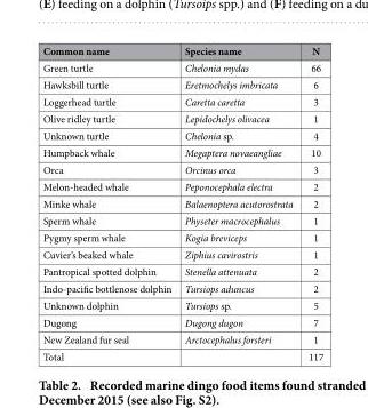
<table><thead><tr><td>Common name</td><td>Species name</td><td>N</td></tr></thead><tbody><tr><td>Green turtle</td><td>Chelonia mydas</td><td>66</td></tr><tr><td>Hawksbill turtle</td><td>Eretmochelys imbricata</td><td>6</td></tr><tr><td>Loggerhead turtle</td><td>Caretta caretta</td><td>3</td></tr><tr><td>Olive ridley turtle</td><td>Lepidochelys olivacea</td><td>1</td></tr><tr><td>Unknown turtle</td><td>Chelonia sp.</td><td>4</td></tr><tr><td>Humpback whale</td><td>Megaptera novaeangliae</td><td>10</td></tr><tr><td>Orca</td><td>Orcinus orca</td><td>3</td></tr><tr><td>Melon-headed whale</td><td>Peponocephala electra</td><td>2</td></tr><tr><td>Minke whale</td><td>Balaenoptera acutorostrata</td><td>2</td></tr><tr><td>Sperm whale</td><td>Physeter macrocephalus</td><td>1</td></tr><tr><td>Pygmy sperm whale</td><td>Kogia breviceps</td><td>1</td></tr><tr><td>Cuvier’s beaked whale</td><td>Ziphius cavirostris</td><td>1</td></tr><tr><td>Pantropical spotted dolphin</td><td>Stenella attenuata</td><td>2</td></tr><tr><td>Indo-pacific bottlenose dolphin</td><td>Tursiops aduncus</td><td>2</td></tr><tr><td>Unknown dolphin</td><td>Tursiops sp.</td><td>5</td></tr><tr><td>Dugong</td><td>Dugong dugon</td><td>7</td></tr><tr><td>New Zealand fur seal</td><td>Arctocephalus forsteri</td><td>1</td></tr><tr><td>Total</td><td></td><td>117</td></tr></tbody></table>